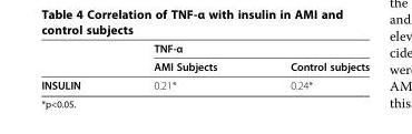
<table><thead><tr><td rowspan="2"></td><td colspan="2">TNF-α</td></tr><tr><td>AMI Subjects</td><td>Control subjects</td></tr></thead><tbody><tr><td>INSULIN</td><td>0.21*</td><td>0.24*</td></tr></tbody></table>